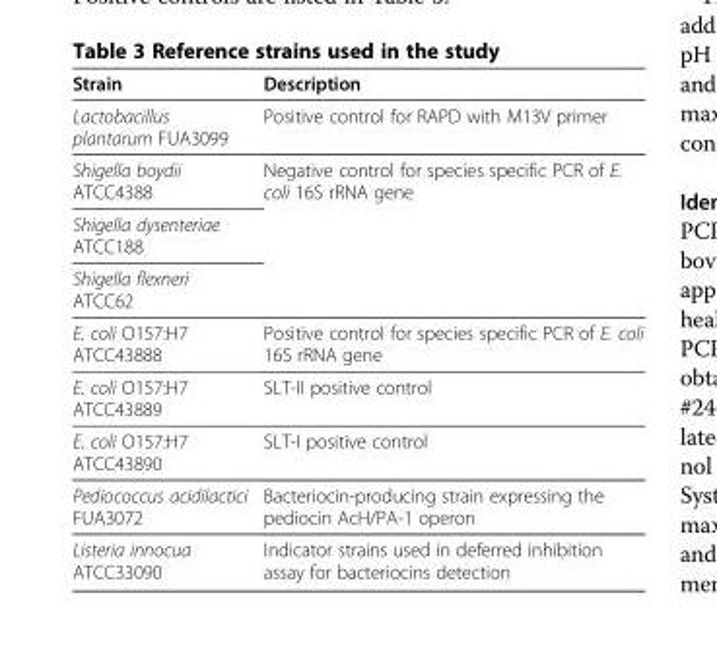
<table><thead><tr><td>Strain</td><td>Description</td></tr></thead><tbody><tr><td>Lactobacillus plantarum FUA3099</td><td>Positive control for RAPD with M13V primer</td></tr><tr><td>Shigella boydii ATCC4388</td><td rowspan="3">Negative control for species specific PCR of E. coli 16S rRNA gene</td></tr><tr><td>Shigella dysenteriae ATCC188</td></tr><tr><td>Shigella flexneri ATCC62</td></tr><tr><td>E. coli O157:H7 ATCC43888</td><td>Positive control for species specific PCR of E. coli 16S rRNA gene</td></tr><tr><td>E. coli O157:H7 ATCC43889</td><td>SLT-II positive control</td></tr><tr><td>E. coli O157:H7 ATCC43890</td><td>SLT-I positive control</td></tr><tr><td>Pediococcus acidilactici FUA3072</td><td>Bacteriocin-producing strain expressing the pediocin AcH/PA-1 operon</td></tr><tr><td>Listeria innocua ATCC33090</td><td>Indicator strains used in deferred inhibition assay for bacteriocins detection</td></tr></tbody></table>